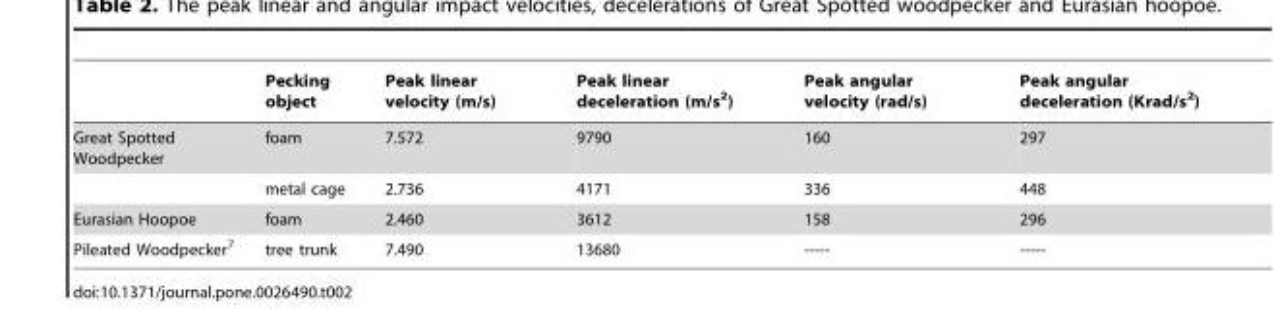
<table><thead><tr><td></td><td>Pecking object</td><td>Peak linear velocity (m/s)</td><td>Peak linear deceleration (m/s<sup>2</sup>)</td><td>Peak angular velocity (rad/s)</td><td>Peak angular deceleration (Krad/s<sup>2</sup>)</td></tr></thead><tbody><tr><td rowspan="2">Great Spotted Woodpecker</td><td>foam</td><td>7.572</td><td>9790</td><td>160</td><td>297</td></tr><tr><td>metal cage</td><td>2.736</td><td>4171</td><td>336</td><td>448</td></tr><tr><td>Eurasian Hoopoe</td><td>foam</td><td>2.460</td><td>3612</td><td>158</td><td>296</td></tr><tr><td>Pileated Woodpecker<sup>7</sup></td><td>tree trunk</td><td>7.490</td><td>13680</td><td>-----</td><td>-----</td></tr></tbody></table>